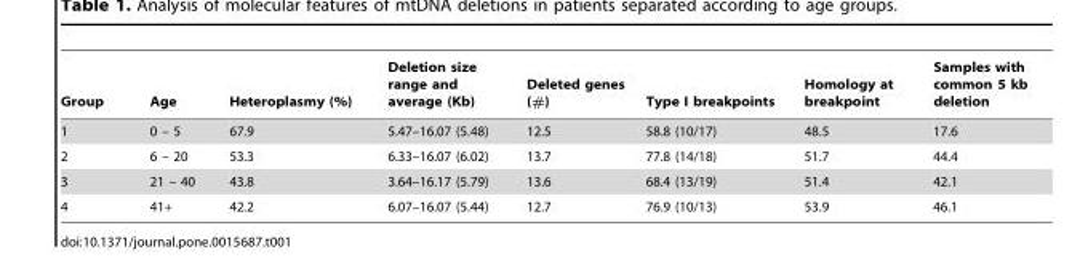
<table><thead><tr><td>Group</td><td>Age</td><td>Heteroplasmy (%)</td><td>Deletion size range and average (Kb)</td><td>Deleted genes (#)</td><td>Type I breakpoints</td><td>Homology at breakpoint</td><td>Samples with common 5 kb deletion</td></tr></thead><tbody><tr><td>1</td><td>0 – 5</td><td>67.9</td><td>5.47–16.07 (5.48)</td><td>12.5</td><td>58.8 (10/17)</td><td>48.5</td><td>17.6</td></tr><tr><td>2</td><td>6 – 20</td><td>53.3</td><td>6.33–16.07 (6.02)</td><td>13.7</td><td>77.8 (14/18)</td><td>51.7</td><td>44.4</td></tr><tr><td>3</td><td>21 – 40</td><td>43.8</td><td>3.64–16.17 (5.79)</td><td>13.6</td><td>68.4 (13/19)</td><td>51.4</td><td>42.1</td></tr><tr><td>4</td><td>41+</td><td>42.2</td><td>6.07–16.07 (5.44)</td><td>12.7</td><td>76.9 (10/13)</td><td>53.9</td><td>46.1</td></tr></tbody></table>